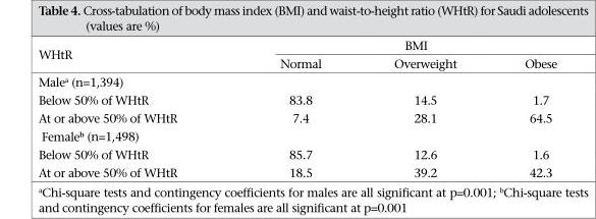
<table><thead><tr><td rowspan="2">WHtR</td><td colspan="3">BMI</td></tr><tr><td>Normal</td><td>Overweight</td><td>Obese</td></tr></thead><tbody><tr><td colspan="4">Male<sup>a</sup> (n=1,394)</td></tr><tr><td>Below 50% of WHtR</td><td>83.8</td><td>14.5</td><td>1.7</td></tr><tr><td>At or above 50% of WHtR</td><td>7.4</td><td>28.1</td><td>64.5</td></tr><tr><td colspan="4">Female<sup>b</sup> (n=1,498)</td></tr><tr><td>Below 50% of WHtR</td><td>85.7</td><td>12.6</td><td>1.6</td></tr><tr><td>At or above 50% of WHtR</td><td>18.5</td><td>39.2</td><td>42.3</td></tr></tbody></table>